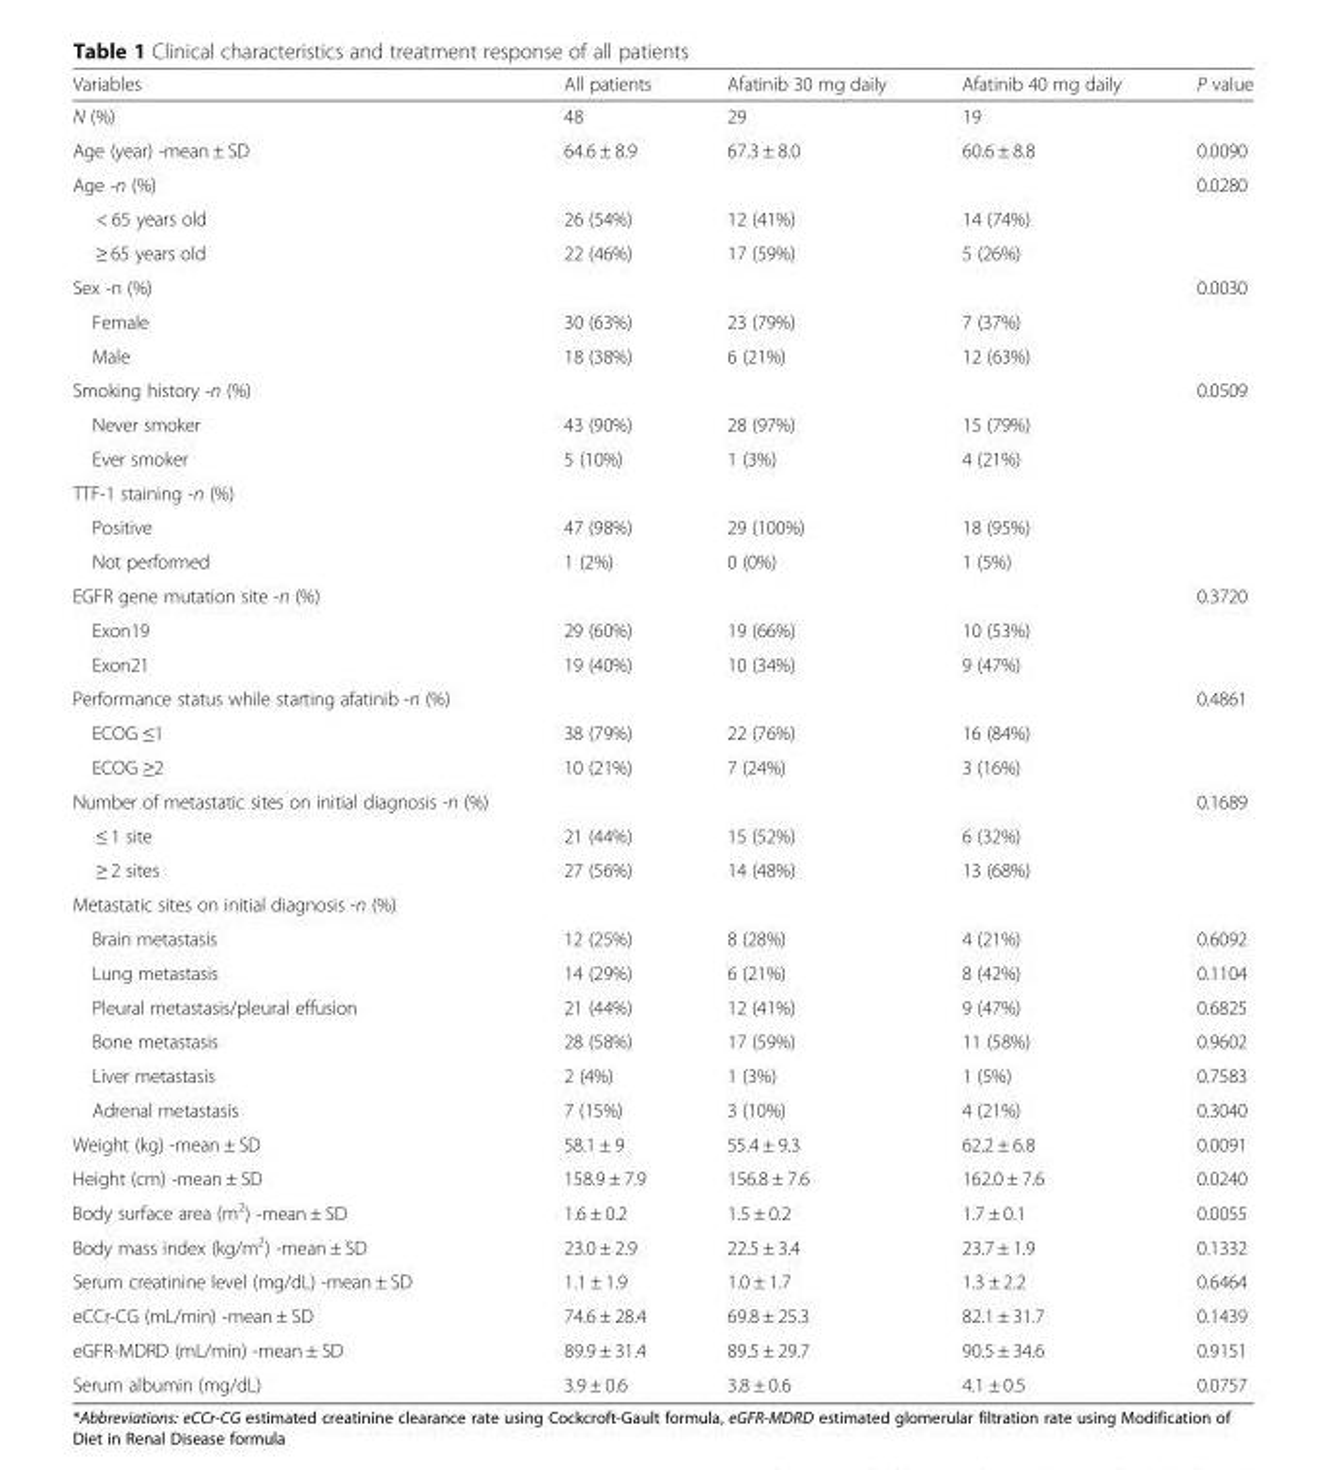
<table><thead><tr><td>Variables</td><td>All patients</td><td>Afatinib 30 mg daily</td><td>Afatinib 40 mg daily</td><td>P value</td></tr></thead><tbody><tr><td>N (%)</td><td>48</td><td>29</td><td>19</td><td></td></tr><tr><td>Age (year) -mean ± SD</td><td>64.6 ± 8.9</td><td>67.3 ± 8.0</td><td>60.6 ± 8.8</td><td>0.0090</td></tr><tr><td>Age -n (%)</td><td></td><td></td><td></td><td>0.0280</td></tr><tr><td>&lt; 65 years old</td><td>26 (54%)</td><td>12 (41%)</td><td>14 (74%)</td><td></td></tr><tr><td>≥ 65 years old</td><td>22 (46%)</td><td>17 (59%)</td><td>5 (26%)</td><td></td></tr><tr><td>Sex -n (%)</td><td></td><td></td><td></td><td>0.0030</td></tr><tr><td>Female</td><td>30 (63%)</td><td>23 (79%)</td><td>7 (37%)</td><td></td></tr><tr><td>Male</td><td>18 (38%)</td><td>6 (21%)</td><td>12 (63%)</td><td></td></tr><tr><td>Smoking history -n (%)</td><td></td><td></td><td></td><td>0.0509</td></tr><tr><td>Never smoker</td><td>43 (90%)</td><td>28 (97%)</td><td>15 (79%)</td><td></td></tr><tr><td>Ever smoker</td><td>5 (10%)</td><td>1 (3%)</td><td>4 (21%)</td><td></td></tr><tr><td colspan="5">TTF-1 staining -n (%)</td></tr><tr><td>Positive</td><td>47 (98%)</td><td>29 (100%)</td><td>18 (95%)</td><td></td></tr><tr><td>Not performed</td><td>1 (2%)</td><td>0 (0%)</td><td>1 (5%)</td><td></td></tr><tr><td>EGFR gene mutation site -n (%)</td><td></td><td></td><td></td><td>0.3720</td></tr><tr><td>Exon19</td><td>29 (60%)</td><td>19 (66%)</td><td>10 (53%)</td><td></td></tr><tr><td>Exon21</td><td>19 (40%)</td><td>10 (34%)</td><td>9 (47%)</td><td></td></tr><tr><td>Performance status while starting afatinib -n (%)</td><td></td><td></td><td></td><td>0.4861</td></tr><tr><td>ECOG ≤1</td><td>38 (79%)</td><td>22 (76%)</td><td>16 (84%)</td><td></td></tr><tr><td>ECOG ≥2</td><td>10 (21%)</td><td>7 (24%)</td><td>3 (16%)</td><td></td></tr><tr><td>Number of metastatic sites on initial diagnosis -n (%)</td><td></td><td></td><td></td><td>0.1689</td></tr><tr><td>≤ 1 site</td><td>21 (44%)</td><td>15 (52%)</td><td>6 (32%)</td><td></td></tr><tr><td>≥ 2 sites</td><td>27 (56%)</td><td>14 (48%)</td><td>13 (68%)</td><td></td></tr><tr><td colspan="5">Metastatic sites on initial diagnosis -n (%)</td></tr><tr><td>Brain metastasis</td><td>12 (25%)</td><td>8 (28%)</td><td>4 (21%)</td><td>0.6092</td></tr><tr><td>Lung metastasis</td><td>14 (29%)</td><td>6 (21%)</td><td>8 (42%)</td><td>0.1104</td></tr><tr><td>Pleural metastasis/pleural effusion</td><td>21 (44%)</td><td>12 (41%)</td><td>9 (47%)</td><td>0.6825</td></tr><tr><td>Bone metastasis</td><td>28 (58%)</td><td>17 (59%)</td><td>11 (58%)</td><td>0.9602</td></tr><tr><td>Liver metastasis</td><td>2 (4%)</td><td>1 (3%)</td><td>1 (5%)</td><td>0.7583</td></tr><tr><td>Adrenal metastasis</td><td>7 (15%)</td><td>3 (10%)</td><td>4 (21%)</td><td>0.3040</td></tr><tr><td>Weight (kg) -mean ± SD</td><td>58.1 ± 9</td><td>55.4 ± 9.3</td><td>62.2 ± 6.8</td><td>0.0091</td></tr><tr><td>Height (cm) -mean ± SD</td><td>158.9 ± 7.9</td><td>156.8 ± 7.6</td><td>162.0 ± 7.6</td><td>0.0240</td></tr><tr><td>Body surface area (m<sup>2</sup>) -mean ± SD</td><td>1.6 ± 0.2</td><td>1.5 ± 0.2</td><td>1.7 ± 0.1</td><td>0.0055</td></tr><tr><td>Body mass index (kg/m<sup>2</sup>) -mean ± SD</td><td>23.0 ± 2.9</td><td>22.5 ± 3.4</td><td>23.7 ± 1.9</td><td>0.1332</td></tr><tr><td>Serum creatinine level (mg/dL) -mean ± SD</td><td>1.1 ± 1.9</td><td>1.0 ± 1.7</td><td>1.3 ± 2.2</td><td>0.6464</td></tr><tr><td>eCCr-CG (mL/min) -mean ± SD</td><td>74.6 ± 28.4</td><td>69.8 ± 25.3</td><td>82.1 ± 31.7</td><td>0.1439</td></tr><tr><td>eGFR-MDRD (mL/min) -mean ± SD</td><td>89.9 ± 31.4</td><td>89.5 ± 29.7</td><td>90.5 ± 34.6</td><td>0.9151</td></tr><tr><td>Serum albumin (mg/dL)</td><td>3.9 ± 0.6</td><td>3.8 ± 0.6</td><td>4.1 ± 0.5</td><td>0.0757</td></tr></tbody></table>